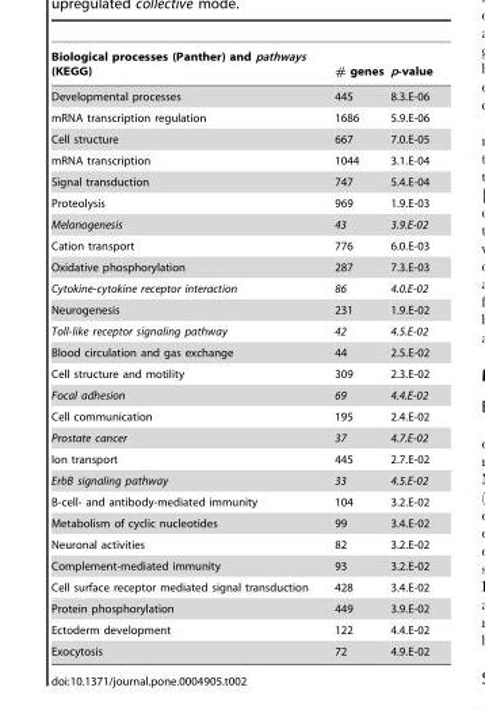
<table><thead><tr><td>Biological processes (Panther) and pathways (KEGG)</td><td># genes</td><td>p-value</td></tr></thead><tbody><tr><td>Developmental processes</td><td>445</td><td>8.3.E-06</td></tr><tr><td>mRNA transcription regulation</td><td>1686</td><td>5.9.E-06</td></tr><tr><td>Cell structure</td><td>667</td><td>7.0.E-05</td></tr><tr><td>mRNA transcription</td><td>1044</td><td>3.1.E-04</td></tr><tr><td>Signal transduction</td><td>747</td><td>5.4.E-04</td></tr><tr><td>Proteolysis</td><td>969</td><td>1.9.E-03</td></tr><tr><td>Melanogenesis</td><td>43</td><td>3.9.E-02</td></tr><tr><td>Cation transport</td><td>776</td><td>6.0.E-03</td></tr><tr><td>Oxidative phosphorylation</td><td>287</td><td>7.3.E-03</td></tr><tr><td>Cytokine-cytokine receptor interaction</td><td>86</td><td>4.0.E-02</td></tr><tr><td>Neurogenesis</td><td>231</td><td>1.9.E-02</td></tr><tr><td>Toll-like receptor signaling pathway</td><td>42</td><td>4.5.E-02</td></tr><tr><td>Blood circulation and gas exchange</td><td>44</td><td>2.5.E-02</td></tr><tr><td>Cell structure and motility</td><td>309</td><td>2.3.E-02</td></tr><tr><td>Focal adhesion</td><td>69</td><td>4.4.E-02</td></tr><tr><td>Cell communication</td><td>195</td><td>2.4.E-02</td></tr><tr><td>Prostate cancer</td><td>37</td><td>4.7.E-02</td></tr><tr><td>Ion transport</td><td>445</td><td>2.7.E-02</td></tr><tr><td>ErbB signaling pathway</td><td>33</td><td>4.5.E-02</td></tr><tr><td>B-cell- and antibody-mediated immunity</td><td>104</td><td>3.2.E-02</td></tr><tr><td>Metabolism of cyclic nucleotides</td><td>99</td><td>3.4.E-02</td></tr><tr><td>Neuronal activities</td><td>82</td><td>3.2.E-02</td></tr><tr><td>Complement-mediated immunity</td><td>93</td><td>3.2.E-02</td></tr><tr><td>Cell surface receptor mediated signal transduction</td><td>428</td><td>3.4.E-02</td></tr><tr><td>Protein phosphorylation</td><td>449</td><td>3.9.E-02</td></tr><tr><td>Ectoderm development</td><td>122</td><td>4.4.E-02</td></tr><tr><td>Exocytosis</td><td>72</td><td>4.9.E-02</td></tr></tbody></table>